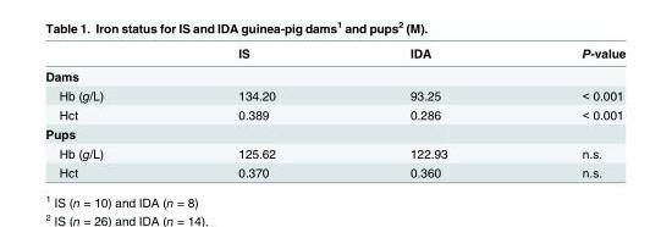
<table><thead><tr><td></td><td>IS</td><td>IDA</td><td>P-value</td></tr></thead><tbody><tr><td colspan="4">Dams</td></tr><tr><td>Hb (g/L)</td><td>134.20</td><td>93.25</td><td>&lt; 0.001</td></tr><tr><td>Hct</td><td>0.389</td><td>0.286</td><td>&lt; 0.001</td></tr><tr><td colspan="4">Pups</td></tr><tr><td>Hb (g/L)</td><td>125.62</td><td>122.93</td><td>n.s.</td></tr><tr><td>Hct</td><td>0.370</td><td>0.360</td><td>n.s.</td></tr></tbody></table>